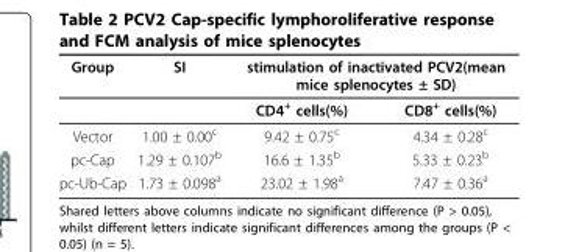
<table><thead><tr><td rowspan="2">Group</td><td rowspan="2">SI</td><td colspan="2">stimulation of inactivated PCV2(mean mice splenocytes ± SD)</td></tr><tr><td>CD4<sup>+</sup> cells(%)</td><td>CD8<sup>+</sup> cells(%)</td></tr></thead><tbody><tr><td>Vector</td><td>1.00 ± 0.00<sup>c</sup></td><td>9.42 ± 0.75<sup>c</sup></td><td>4.34 ± 0.28<sup>c</sup></td></tr><tr><td>pc-Cap</td><td>1.29 ± 0.107<sup>b</sup></td><td>16.6 ± 1.35<sup>b</sup></td><td>5.33 ± 0.23<sup>b</sup></td></tr><tr><td>pc-Ub-Cap</td><td>1.73 ± 0.098<sup>a</sup></td><td>23.02 ± 1.98<sup>a</sup></td><td>7.47 ± 0.36<sup>a</sup></td></tr></tbody></table>